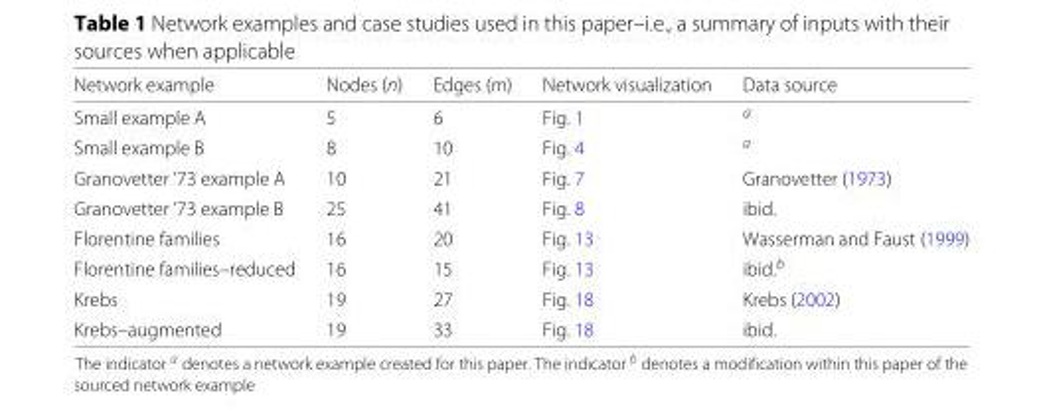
<table><thead><tr><td>Network example</td><td>Nodes (n)</td><td>Edges (m)</td><td>Network visualization</td><td>Data source</td></tr></thead><tbody><tr><td>Small example A</td><td>5</td><td>6</td><td>Fig. 1</td><td><sup>a</sup></td></tr><tr><td>Small example B</td><td>8</td><td>10</td><td>Fig. 4</td><td><sup>a</sup></td></tr><tr><td>Granovetter ’73 example A</td><td>10</td><td>21</td><td>Fig. 7</td><td>Granovetter (1973)</td></tr><tr><td>Granovetter ’73 example B</td><td>25</td><td>41</td><td>Fig. 8</td><td>ibid.</td></tr><tr><td>Florentine families</td><td>16</td><td>20</td><td>Fig. 13</td><td>Wasserman and Faust (1999)</td></tr><tr><td>Florentine families–reduced</td><td>16</td><td>15</td><td>Fig. 13</td><td>ibid.<sup>b</sup></td></tr><tr><td>Krebs</td><td>19</td><td>27</td><td>Fig. 18</td><td>Krebs (2002)</td></tr><tr><td>Krebs–augmented</td><td>19</td><td>33</td><td>Fig. 18</td><td>ibid.</td></tr></tbody></table>